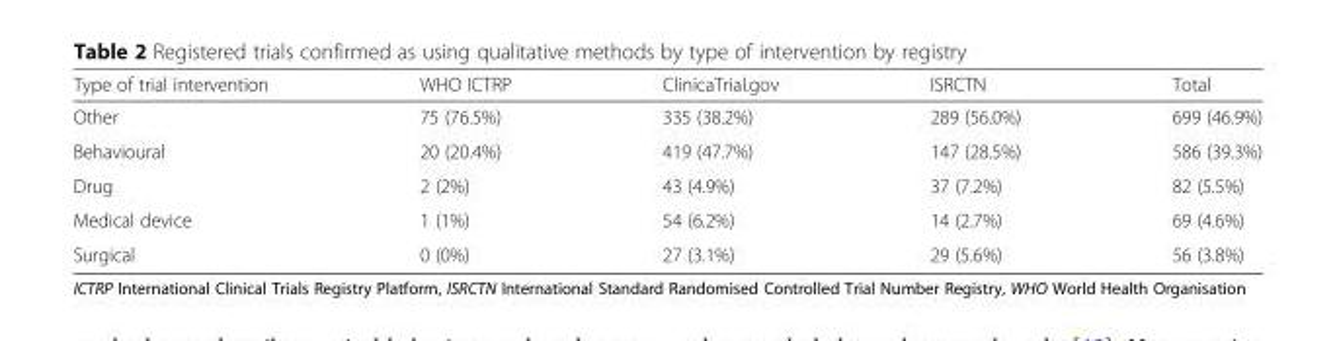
<table><thead><tr><td>Type of trial intervention</td><td>WHO ICTRP</td><td>ClinicaTrial.gov</td><td>ISRCTN</td><td>Total</td></tr></thead><tbody><tr><td>Other</td><td>75 (76.5%)</td><td>335 (38.2%)</td><td>289 (56.0%)</td><td>699 (46.9%)</td></tr><tr><td>Behavioural</td><td>20 (20.4%)</td><td>419 (47.7%)</td><td>147 (28.5%)</td><td>586 (39.3%)</td></tr><tr><td>Drug</td><td>2 (2%)</td><td>43 (4.9%)</td><td>37 (7.2%)</td><td>82 (5.5%)</td></tr><tr><td>Medical device</td><td>1 (1%)</td><td>54 (6.2%)</td><td>14 (2.7%)</td><td>69 (4.6%)</td></tr><tr><td>Surgical</td><td>0 (0%)</td><td>27 (3.1%)</td><td>29 (5.6%)</td><td>56 (3.8%)</td></tr></tbody></table>